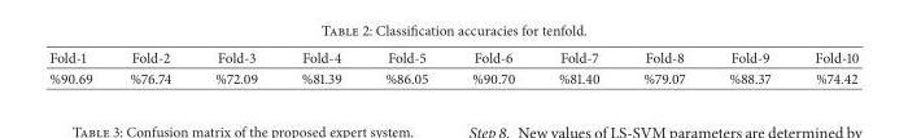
<table><thead><tr><td>Fold-1</td><td>Fold-2</td><td>Fold-3</td><td>Fold-4</td><td>Fold-5</td><td>Fold-6</td><td>Fold-7</td><td>Fold-8</td><td>Fold-9</td><td>Fold-10</td></tr></thead><tbody><tr><td>%90.69</td><td>%76.74</td><td>%72.09</td><td>%81.39</td><td>%86.05</td><td>%90.70</td><td>%81.40</td><td>%79.07</td><td>%88.37</td><td>%74.42</td></tr></tbody></table>